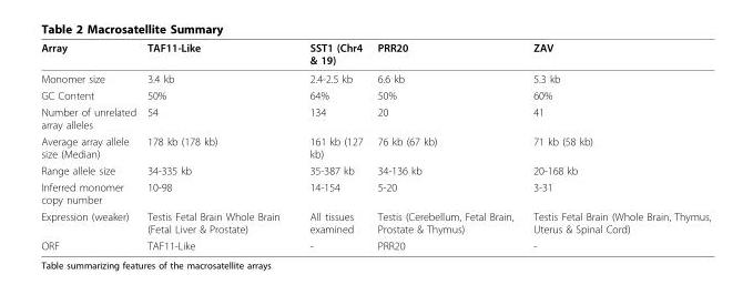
<table><thead><tr><td>Array</td><td>TAF11-Like</td><td>SST1 (Chr4 &amp; 19)</td><td>PRR20</td><td>ZAV</td></tr></thead><tbody><tr><td>Monomer size</td><td>3.4 kb</td><td>2.4-2.5 kb</td><td>6.6 kb</td><td>5.3 kb</td></tr><tr><td>GC Content</td><td>50%</td><td>64%</td><td>50%</td><td>60%</td></tr><tr><td>Number of unrelated array alleles</td><td>54</td><td>134</td><td>20</td><td>41</td></tr><tr><td>Average array allele size (Median)</td><td>178 kb (178 kb)</td><td>161 kb (127 kb)</td><td>76 kb (67 kb)</td><td>71 kb (58 kb)</td></tr><tr><td>Range allele size</td><td>34-335 kb</td><td>35-387 kb</td><td>34-136 kb</td><td>20-168 kb</td></tr><tr><td>Inferred monomer copy number</td><td>10-98</td><td>14-154</td><td>5-20</td><td>3-31</td></tr><tr><td>Expression (weaker)</td><td>Testis Fetal Brain Whole Brain (Fetal Liver &amp; Prostate)</td><td>All tissues examined</td><td>Testis (Cerebellum, Fetal Brain, Prostate &amp; Thymus)</td><td>Testis Fetal Brain (Whole Brain, Thymus, Uterus &amp; Spinal Cord)</td></tr><tr><td>ORF</td><td>TAF11-Like</td><td>-</td><td>PRR20</td><td>-</td></tr></tbody></table>